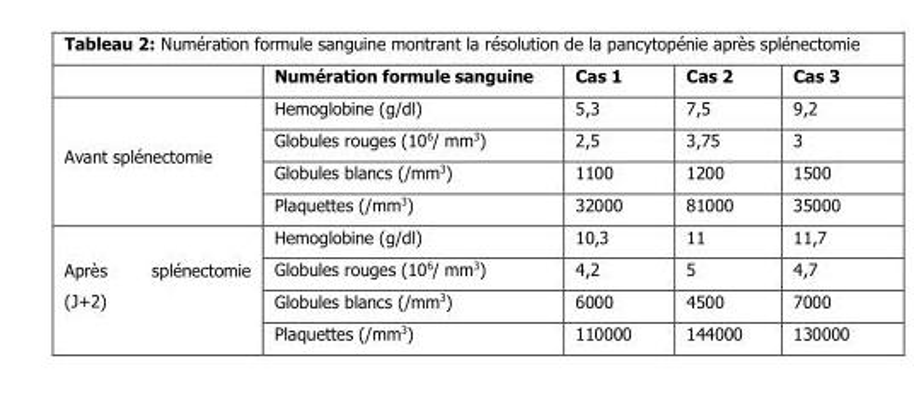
<table><thead><tr><td></td><td>Numération formule sanguine</td><td>Cas 1</td><td>Cas 2</td><td>Cas 3</td></tr></thead><tbody><tr><td rowspan="4">Avant splénectomie</td><td>Hemoglobine (g/dl)</td><td>5,3</td><td>7,5</td><td>9,2</td></tr><tr><td>Globules rouges (10<sup>6</sup>/ mm<sup>3</sup>)</td><td>2,5</td><td>3,75</td><td>3</td></tr><tr><td>Globules blancs (/mm<sup>3</sup>)</td><td>1100</td><td>1200</td><td>1500</td></tr><tr><td>Plaquettes (/mm<sup>3</sup>)</td><td>32000</td><td>81000</td><td>35000</td></tr><tr><td rowspan="4">Après splénectomie (J+2)</td><td>Hemoglobine (g/dl)</td><td>10,3</td><td>11</td><td>11,7</td></tr><tr><td>Globules rouges (10<sup>6</sup>/ mm<sup>3</sup>)</td><td>4,2</td><td>5</td><td>4,7</td></tr><tr><td>Globules blancs (/mm<sup>3</sup>)</td><td>6000</td><td>4500</td><td>7000</td></tr><tr><td>Plaquettes (/mm<sup>3</sup>)</td><td>110000</td><td>144000</td><td>130000</td></tr></tbody></table>